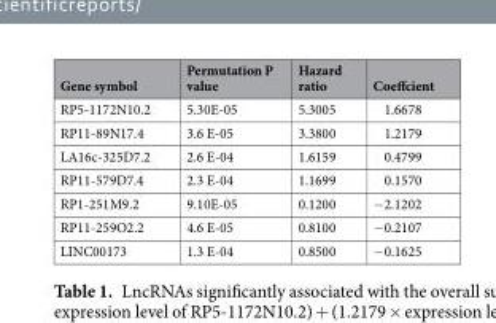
<table><thead><tr><td>Gene symbol</td><td>Permutation P value</td><td>Hazard ratio</td><td>Coeffcient</td></tr></thead><tbody><tr><td>RP5-1172N10.2</td><td>5.30E-05</td><td>5.3005</td><td>1.6678</td></tr><tr><td>RP11-89N17.4</td><td>3.6 E-05</td><td>3.3800</td><td>1.2179</td></tr><tr><td>LA16c-325D7.2</td><td>2.6 E-04</td><td>1.6159</td><td>0.4799</td></tr><tr><td>RP11-579D7.4</td><td>2.3 E-04</td><td>1.1699</td><td>0.1570</td></tr><tr><td>RP1-251M9.2</td><td>9.10E-05</td><td>0.1200</td><td>−2.1202</td></tr><tr><td>RP11-259O2.2</td><td>4.6 E-05</td><td>0.8100</td><td>−0.2107</td></tr><tr><td>LINC00173</td><td>1.3 E-04</td><td>0.8500</td><td>−0.1625</td></tr></tbody></table>